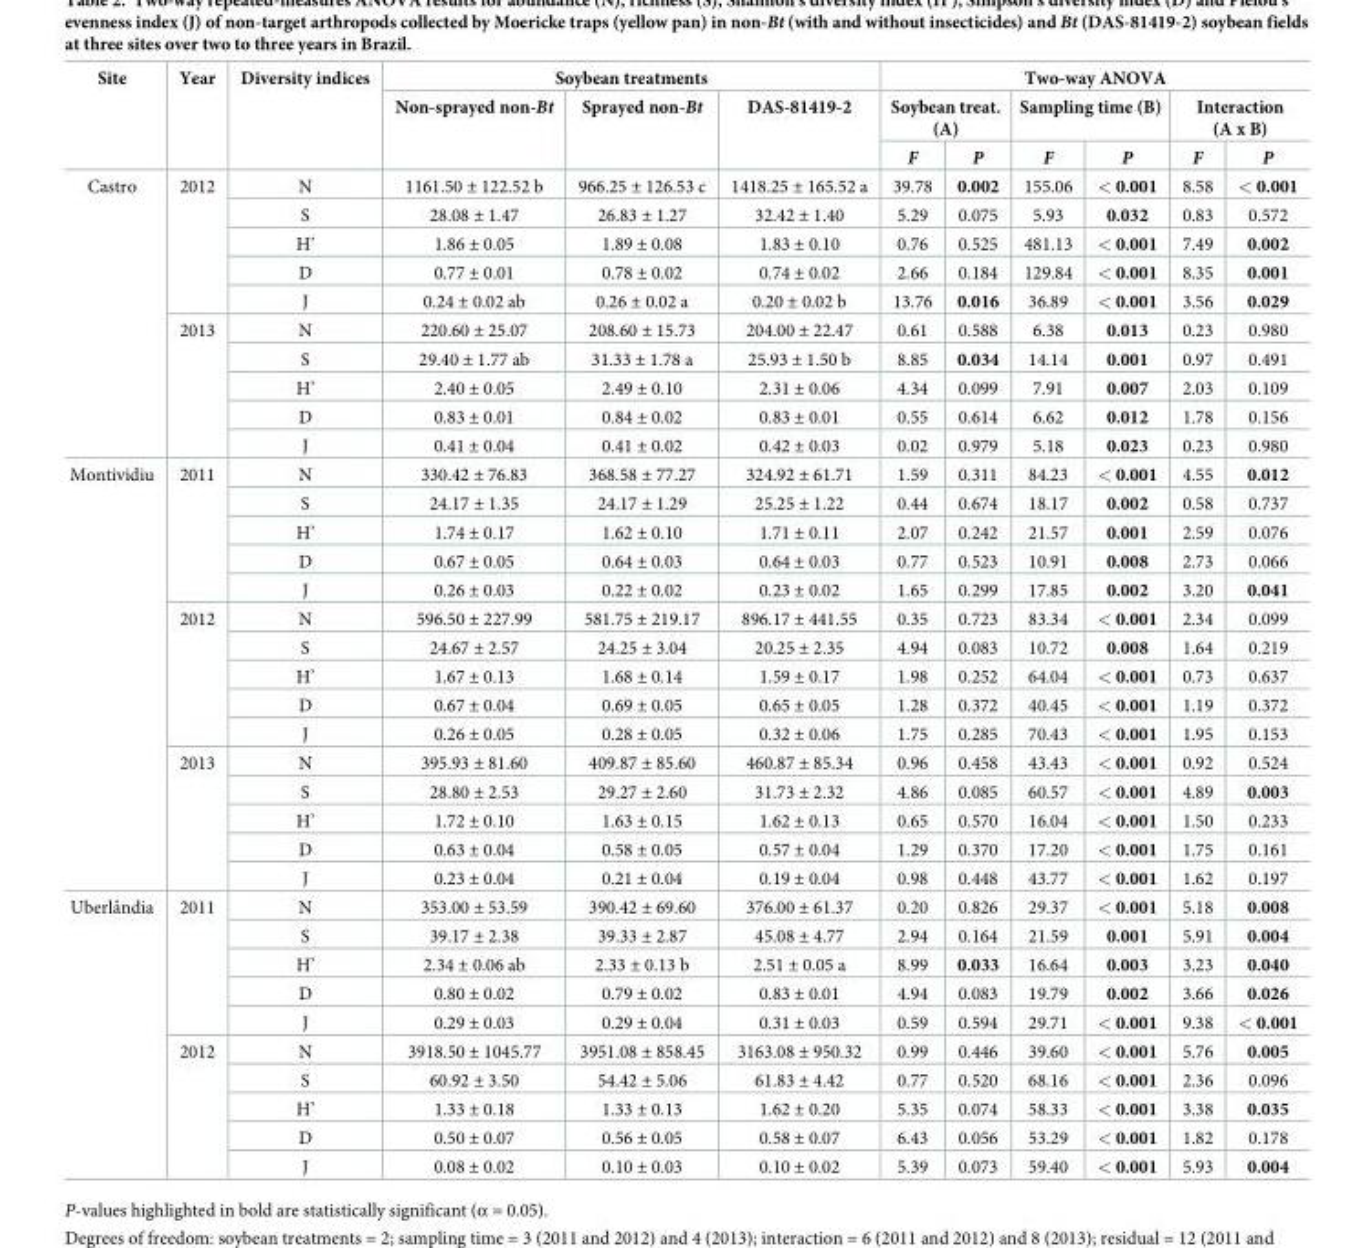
<table><thead><tr><td rowspan="3">Site</td><td rowspan="3">Year</td><td rowspan="3">Diversity indices</td><td colspan="3">Soybean treatments</td><td colspan="6">Two-way ANOVA</td></tr><tr><td rowspan="2">Non-sprayed non-Bt</td><td rowspan="2">Sprayed non-Bt</td><td rowspan="2">DAS-81419-2</td><td colspan="2">Soybean treat. (A)</td><td colspan="2">Sampling time (B)</td><td colspan="2">Interaction (A x B)</td></tr><tr><td>F</td><td>P</td><td>F</td><td>P</td><td>F</td><td>P</td></tr></thead><tbody><tr><td rowspan="10">Castro</td><td rowspan="5">2012</td><td>N</td><td>1161.50 ± 122.52 b</td><td>966.25 ± 126.53 c</td><td>1418.25 ± 165.52 a</td><td>39.78</td><td>0.002</td><td>155.06</td><td>&lt; 0.001</td><td>8.58</td><td>&lt; 0.001</td></tr><tr><td>S</td><td>28.08 ± 1.47</td><td>26.83 ± 1.27</td><td>32.42 ± 1.40</td><td>5.29</td><td>0.075</td><td>5.93</td><td>0.032</td><td>0.83</td><td>0.572</td></tr><tr><td>H’</td><td>1.86 ± 0.05</td><td>1.89 ± 0.08</td><td>1.83 ± 0.10</td><td>0.76</td><td>0.525</td><td>481.13</td><td>&lt; 0.001</td><td>7.49</td><td>0.002</td></tr><tr><td>D</td><td>0.77 ± 0.01</td><td>0.78 ± 0.02</td><td>0.74 ± 0.02</td><td>2.66</td><td>0.184</td><td>129.84</td><td>&lt; 0.001</td><td>8.35</td><td>0.001</td></tr><tr><td>J</td><td>0.24 ± 0.02 ab</td><td>0.26 ± 0.02 a</td><td>0.20 ± 0.02 b</td><td>13.76</td><td>0.016</td><td>36.89</td><td>&lt; 0.001</td><td>3.56</td><td>0.029</td></tr><tr><td rowspan="5">2013</td><td>N</td><td>220.60 ± 25.07</td><td>208.60 ± 15.73</td><td>204.00 ± 22.47</td><td>0.61</td><td>0.588</td><td>6.38</td><td>0.013</td><td>0.23</td><td>0.980</td></tr><tr><td>S</td><td>29.40 ± 1.77 ab</td><td>31.33 ± 1.78 a</td><td>25.93 ± 1.50 b</td><td>8.85</td><td>0.034</td><td>14.14</td><td>0.001</td><td>0.97</td><td>0.491</td></tr><tr><td>H’</td><td>2.40 ± 0.05</td><td>2.49 ± 0.10</td><td>2.31 ± 0.06</td><td>4.34</td><td>0.099</td><td>7.91</td><td>0.007</td><td>2.03</td><td>0.109</td></tr><tr><td>D</td><td>0.83 ± 0.01</td><td>0.84 ± 0.02</td><td>0.83 ± 0.01</td><td>0.55</td><td>0.614</td><td>6.62</td><td>0.012</td><td>1.78</td><td>0.156</td></tr><tr><td>J</td><td>0.41 ± 0.04</td><td>0.41 ± 0.02</td><td>0.42 ± 0.03</td><td>0.02</td><td>0.979</td><td>5.18</td><td>0.023</td><td>0.23</td><td>0.980</td></tr><tr><td rowspan="15">Montividiu</td><td rowspan="5">2011</td><td>N</td><td>330.42 ± 76.83</td><td>368.58 ± 77.27</td><td>324.92 ± 61.71</td><td>1.59</td><td>0.311</td><td>84.23</td><td>&lt; 0.001</td><td>4.55</td><td>0.012</td></tr><tr><td>S</td><td>24.17 ± 1.35</td><td>24.17 ± 1.29</td><td>25.25 ± 1.22</td><td>0.44</td><td>0.674</td><td>18.17</td><td>0.002</td><td>0.58</td><td>0.737</td></tr><tr><td>H’</td><td>1.74 ± 0.17</td><td>1.62 ± 0.10</td><td>1.71 ± 0.11</td><td>2.07</td><td>0.242</td><td>21.57</td><td>0.001</td><td>2.59</td><td>0.076</td></tr><tr><td>D</td><td>0.67 ± 0.05</td><td>0.64 ± 0.03</td><td>0.64 ± 0.03</td><td>0.77</td><td>0.523</td><td>10.91</td><td>0.008</td><td>2.73</td><td>0.066</td></tr><tr><td>J</td><td>0.26 ± 0.03</td><td>0.22 ± 0.02</td><td>0.23 ± 0.02</td><td>1.65</td><td>0.299</td><td>17.85</td><td>0.002</td><td>3.20</td><td>0.041</td></tr><tr><td rowspan="5">2012</td><td>N</td><td>596.50 ± 227.99</td><td>581.75 ± 219.17</td><td>896.17 ± 441.55</td><td>0.35</td><td>0.723</td><td>83.34</td><td>&lt; 0.001</td><td>2.34</td><td>0.099</td></tr><tr><td>S</td><td>24.67 ± 2.57</td><td>24.25 ± 3.04</td><td>20.25 ± 2.35</td><td>4.94</td><td>0.083</td><td>10.72</td><td>0.008</td><td>1.64</td><td>0.219</td></tr><tr><td>H’</td><td>1.67 ± 0.13</td><td>1.68 ± 0.14</td><td>1.59 ± 0.17</td><td>1.98</td><td>0.252</td><td>64.04</td><td>&lt; 0.001</td><td>0.73</td><td>0.637</td></tr><tr><td>D</td><td>0.67 ± 0.04</td><td>0.69 ± 0.05</td><td>0.65 ± 0.05</td><td>1.28</td><td>0.372</td><td>40.45</td><td>&lt; 0.001</td><td>1.19</td><td>0.372</td></tr><tr><td>J</td><td>0.26 ± 0.05</td><td>0.28 ± 0.05</td><td>0.32 ± 0.06</td><td>1.75</td><td>0.285</td><td>70.43</td><td>&lt; 0.001</td><td>1.95</td><td>0.153</td></tr><tr><td rowspan="5">2013</td><td>N</td><td>395.93 ± 81.60</td><td>409.87 ± 85.60</td><td>460.87 ± 85.34</td><td>0.96</td><td>0.458</td><td>43.43</td><td>&lt; 0.001</td><td>0.92</td><td>0.524</td></tr><tr><td>S</td><td>28.80 ± 2.53</td><td>29.27 ± 2.60</td><td>31.73 ± 2.32</td><td>4.86</td><td>0.085</td><td>60.57</td><td>&lt; 0.001</td><td>4.89</td><td>0.003</td></tr><tr><td>H’</td><td>1.72 ± 0.10</td><td>1.63 ± 0.15</td><td>1.62 ± 0.13</td><td>0.65</td><td>0.570</td><td>16.04</td><td>&lt; 0.001</td><td>1.50</td><td>0.233</td></tr><tr><td>D</td><td>0.63 ± 0.04</td><td>0.58 ± 0.05</td><td>0.57 ± 0.04</td><td>1.29</td><td>0.370</td><td>17.20</td><td>&lt; 0.001</td><td>1.75</td><td>0.161</td></tr><tr><td>J</td><td>0.23 ± 0.04</td><td>0.21 ± 0.04</td><td>0.19 ± 0.04</td><td>0.98</td><td>0.448</td><td>43.77</td><td>&lt; 0.001</td><td>1.62</td><td>0.197</td></tr><tr><td rowspan="10">Uberlaˆndia</td><td rowspan="5">2011</td><td>N</td><td>353.00 ± 53.59</td><td>390.42 ± 69.60</td><td>376.00 ± 61.37</td><td>0.20</td><td>0.826</td><td>29.37</td><td>&lt; 0.001</td><td>5.18</td><td>0.008</td></tr><tr><td>S</td><td>39.17 ± 2.38</td><td>39.33 ± 2.87</td><td>45.08 ± 4.77</td><td>2.94</td><td>0.164</td><td>21.59</td><td>0.001</td><td>5.91</td><td>0.004</td></tr><tr><td>H’</td><td>2.34 ± 0.06 ab</td><td>2.33 ± 0.13 b</td><td>2.51 ± 0.05 a</td><td>8.99</td><td>0.033</td><td>16.64</td><td>0.003</td><td>3.23</td><td>0.040</td></tr><tr><td>D</td><td>0.80 ± 0.02</td><td>0.79 ± 0.02</td><td>0.83 ± 0.01</td><td>4.94</td><td>0.083</td><td>19.79</td><td>0.002</td><td>3.66</td><td>0.026</td></tr><tr><td>J</td><td>0.29 ± 0.03</td><td>0.29 ± 0.04</td><td>0.31 ± 0.03</td><td>0.59</td><td>0.594</td><td>29.71</td><td>&lt; 0.001</td><td>9.38</td><td>&lt; 0.001</td></tr><tr><td rowspan="5">2012</td><td>N</td><td>3918.50 ± 1045.77</td><td>3951.08 ± 858.45</td><td>3163.08 ± 950.32</td><td>0.99</td><td>0.446</td><td>39.60</td><td>&lt; 0.001</td><td>5.76</td><td>0.005</td></tr><tr><td>S</td><td>60.92 ± 3.50</td><td>54.42 ± 5.06</td><td>61.83 ± 4.42</td><td>0.77</td><td>0.520</td><td>68.16</td><td>&lt; 0.001</td><td>2.36</td><td>0.096</td></tr><tr><td>H’</td><td>1.33 ± 0.18</td><td>1.33 ± 0.13</td><td>1.62 ± 0.20</td><td>5.35</td><td>0.074</td><td>58.33</td><td>&lt; 0.001</td><td>3.38</td><td>0.035</td></tr><tr><td>D</td><td>0.50 ± 0.07</td><td>0.56 ± 0.05</td><td>0.58 ± 0.07</td><td>6.43</td><td>0.056</td><td>53.29</td><td>&lt; 0.001</td><td>1.82</td><td>0.178</td></tr><tr><td>J</td><td>0.08 ± 0.02</td><td>0.10 ± 0.03</td><td>0.10 ± 0.02</td><td>5.39</td><td>0.073</td><td>59.40</td><td>&lt; 0.001</td><td>5.93</td><td>0.004</td></tr></tbody></table>